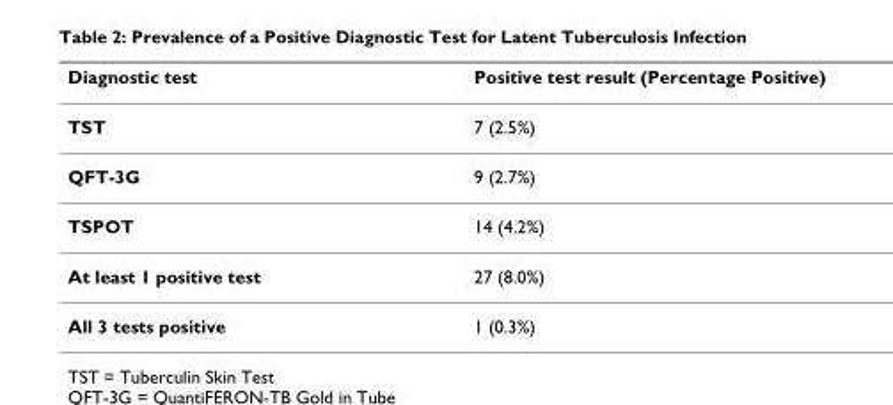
<table><thead><tr><td>Diagnostic test</td><td>Positive test result (Percentage Positive)</td></tr></thead><tbody><tr><td>TST</td><td>7 (2.5%)</td></tr><tr><td>QFT-3G</td><td>9 (2.7%)</td></tr><tr><td>TSPOT</td><td>14 (4.2%)</td></tr><tr><td>At least 1 positive test</td><td>27 (8.0%)</td></tr><tr><td>All 3 tests positive</td><td>1 (0.3%)</td></tr></tbody></table>